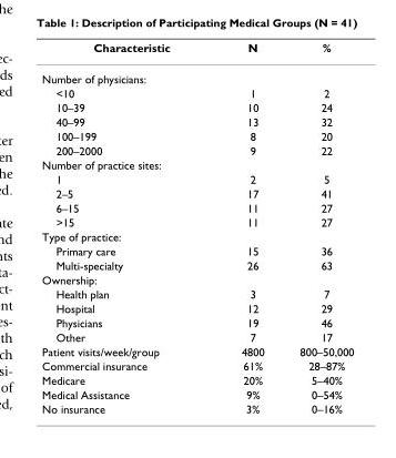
<table><thead><tr><td>Characteristic</td><td>N</td><td>%</td></tr></thead><tbody><tr><td colspan="3">Number of physicians:</td></tr><tr><td>&lt;10</td><td>1</td><td>2</td></tr><tr><td>10–39</td><td>10</td><td>24</td></tr><tr><td>40–99</td><td>13</td><td>32</td></tr><tr><td>100–199</td><td>8</td><td>20</td></tr><tr><td>200–2000</td><td>9</td><td>22</td></tr><tr><td colspan="3">Number of practice sites:</td></tr><tr><td>1</td><td>2</td><td>5</td></tr><tr><td>2–5</td><td>17</td><td>41</td></tr><tr><td>6–15</td><td>11</td><td>27</td></tr><tr><td>&gt;15</td><td>11</td><td>27</td></tr><tr><td colspan="3">Type of practice:</td></tr><tr><td>Primary care</td><td>15</td><td>36</td></tr><tr><td>Multi-specialty</td><td>26</td><td>63</td></tr><tr><td colspan="3">Ownership:</td></tr><tr><td>Health plan</td><td>3</td><td>7</td></tr><tr><td>Hospital</td><td>12</td><td>29</td></tr><tr><td>Physicians</td><td>19</td><td>46</td></tr><tr><td>Other</td><td>7</td><td>17</td></tr><tr><td>Patient visits/week/group</td><td>4800</td><td>800–50,000</td></tr><tr><td>Commercial insurance</td><td>61%</td><td>28–87%</td></tr><tr><td>Medicare</td><td>20%</td><td>5–40%</td></tr><tr><td>Medical Assistance</td><td>9%</td><td>0–54%</td></tr><tr><td>No insurance</td><td>3%</td><td>0–16%</td></tr></tbody></table>